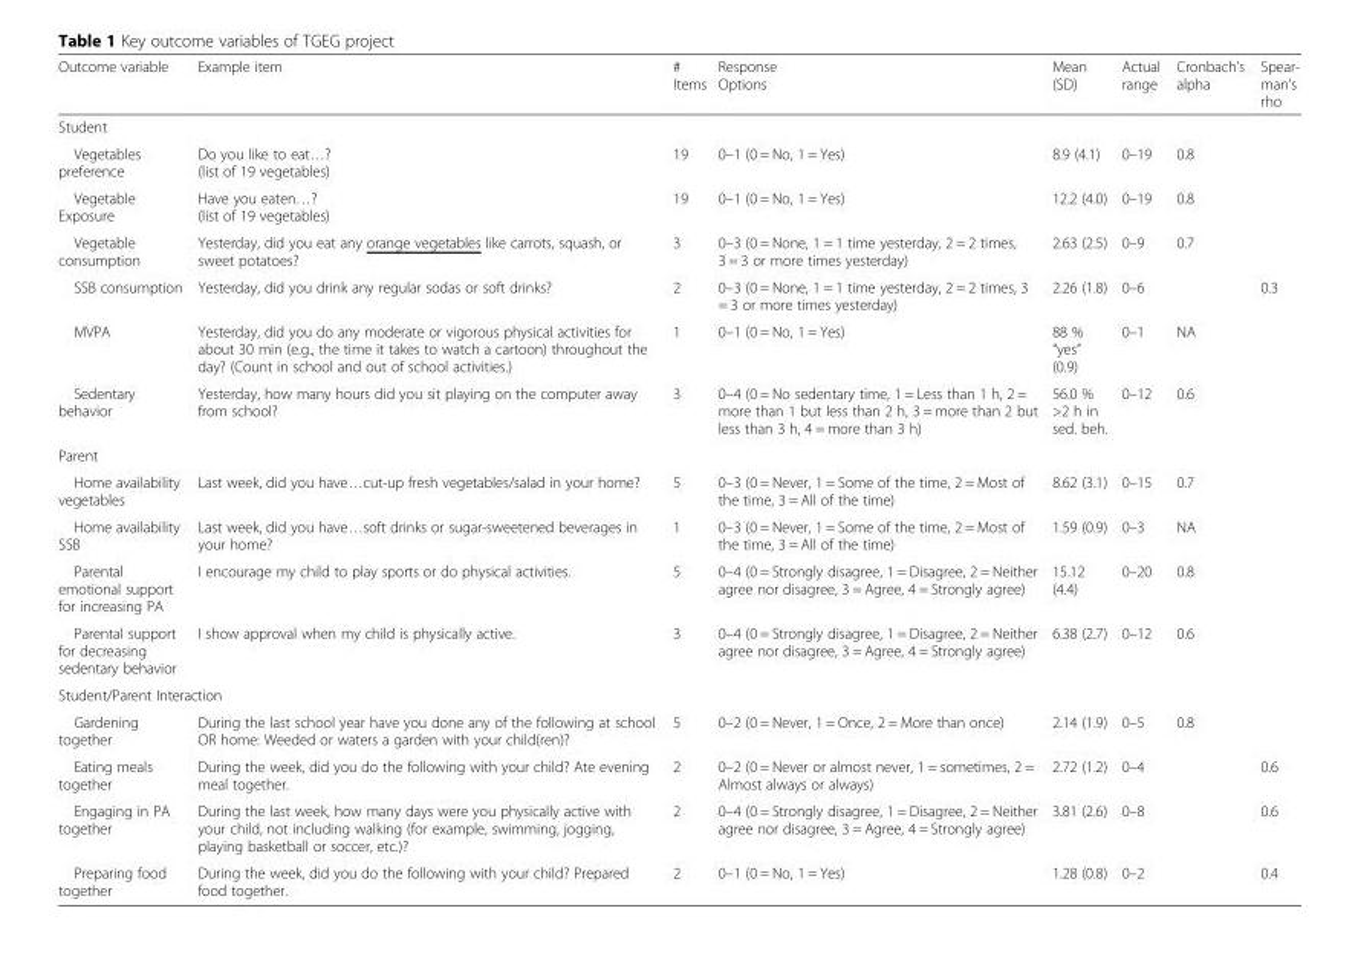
<table><thead><tr><td>Outcome variable</td><td>Example item</td><td># Items</td><td>Response Options</td><td>Mean (SD)</td><td>Actual range</td><td>Cronbach’s alpha</td><td>Spear- man’s rho</td></tr></thead><tbody><tr><td colspan="8">Student</td></tr><tr><td>Vegetables preference</td><td>Do you like to eat…? (list of 19 vegetables)</td><td>19</td><td>0–1 (0 = No, 1 = Yes)</td><td>8.9 (4.1)</td><td>0–19</td><td>0.8</td><td></td></tr><tr><td>Vegetable Exposure</td><td>Have you eaten…? (list of 19 vegetables)</td><td>19</td><td>0–1 (0 = No, 1 = Yes)</td><td>12.2 (4.0)</td><td>0–19</td><td>0.8</td><td></td></tr><tr><td>Vegetable consumption</td><td>Yesterday, did you eat any orange vegetables like carrots, squash, or sweet potatoes?</td><td>3</td><td>0–3 (0 = None, 1 = 1 time yesterday, 2 = 2 times, 3 = 3 or more times yesterday)</td><td>2.63 (2.5)</td><td>0–9</td><td>0.7</td><td></td></tr><tr><td>SSB consumption</td><td>Yesterday, did you drink any regular sodas or soft drinks?</td><td>2</td><td>0–3 (0 = None, 1 = 1 time yesterday, 2 = 2 times, 3 = 3 or more times yesterday)</td><td>2.26 (1.8)</td><td>0–6</td><td></td><td>0.3</td></tr><tr><td>MVPA</td><td>Yesterday, did you do any moderate or vigorous physical activities for about 30 min (e.g., the time it takes to watch a cartoon) throughout the day? (Count in school and out of school activities.)</td><td>1</td><td>0–1 (0 = No, 1 = Yes)</td><td>88 % “yes” (0.9)</td><td>0–1</td><td>NA</td><td></td></tr><tr><td>Sedentary behavior</td><td>Yesterday, how many hours did you sit playing on the computer away from school?</td><td>3</td><td>0–4 (0 = No sedentary time, 1 = Less than 1 h, 2 = more than 1 but less than 2 h, 3 = more than 2 but less than 3 h, 4 = more than 3 h)</td><td>56.0 % &gt;2 h in sed. beh.</td><td>0–12</td><td>0.6</td><td></td></tr><tr><td colspan="8">Parent</td></tr><tr><td>Home availability vegetables</td><td>Last week, did you have…cut-up fresh vegetables/salad in your home?</td><td>5</td><td>0–3 (0 = Never, 1 = Some of the time, 2 = Most of the time, 3 = All of the time)</td><td>8.62 (3.1)</td><td>0–15</td><td>0.7</td><td></td></tr><tr><td>Home availability SSB</td><td>Last week, did you have…soft drinks or sugar-sweetened beverages in your home?</td><td>1</td><td>0–3 (0 = Never, 1 = Some of the time, 2 = Most of the time, 3 = All of the time)</td><td>1.59 (0.9)</td><td>0–3</td><td>NA</td><td></td></tr><tr><td>Parental emotional support for increasing PA</td><td>I encourage my child to play sports or do physical activities.</td><td>5</td><td>0–4 (0 = Strongly disagree, 1 = Disagree, 2 = Neither agree nor disagree, 3 = Agree, 4 = Strongly agree)</td><td>15.12 (4.4)</td><td>0–20</td><td>0.8</td><td></td></tr><tr><td>Parental support for decreasing sedentary behavior</td><td>I show approval when my child is physically active.</td><td>3</td><td>0–4 (0 = Strongly disagree, 1 = Disagree, 2 = Neither agree nor disagree, 3 = Agree, 4 = Strongly agree)</td><td>6.38 (2.7)</td><td>0–12</td><td>0.6</td><td></td></tr><tr><td colspan="8">Student/Parent Interaction</td></tr><tr><td>Gardening together</td><td>During the last school year have you done any of the following at school OR home: Weeded or waters a garden with your child(ren)?</td><td>5</td><td>0–2 (0 = Never, 1 = Once, 2 = More than once)</td><td>2.14 (1.9)</td><td>0–5</td><td>0.8</td><td></td></tr><tr><td>Eating meals together</td><td>During the week, did you do the following with your child? Ate evening meal together.</td><td>2</td><td>0–2 (0 = Never or almost never, 1 = sometimes, 2 = Almost always or always)</td><td>2.72 (1.2)</td><td>0–4</td><td></td><td>0.6</td></tr><tr><td>Engaging in PA together</td><td>During the last week, how many days were you physically active with your child, not including walking (for example, swimming, jogging, playing basketball or soccer, etc.)?</td><td>2</td><td>0–4 (0 = Strongly disagree, 1 = Disagree, 2 = Neither agree nor disagree, 3 = Agree, 4 = Strongly agree)</td><td>3.81 (2.6)</td><td>0–8</td><td></td><td>0.6</td></tr><tr><td>Preparing food together</td><td>During the week, did you do the following with your child? Prepared food together.</td><td>2</td><td>0–1 (0 = No, 1 = Yes)</td><td>1.28 (0.8)</td><td>0–2</td><td></td><td>0.4</td></tr></tbody></table>